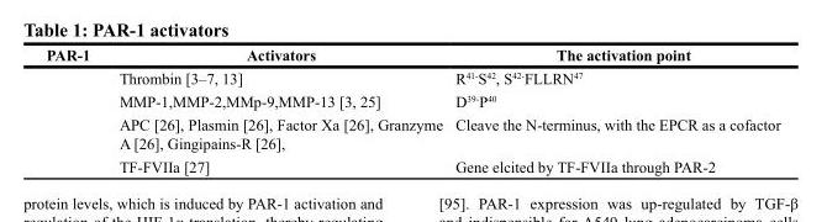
<table><thead><tr><td>PAR-1</td><td>Activators</td><td>The activation point</td></tr></thead><tbody><tr><td></td><td>Thrombin [3–7, 13]</td><td>R<sup>41-</sup>S<sup>42</sup>, S<sup>42-</sup>FLLRN<sup>47</sup></td></tr><tr><td></td><td>MMP-1,MMP-2,MMp-9,MMP-13 [3, 25]</td><td>D<sup>39-</sup>P<sup>40</sup></td></tr><tr><td></td><td>APC [26], Plasmin [26], Factor Xa [26], Granzyme A [26], Gingipains-R [26],</td><td>Cleave the N-terminus, with the EPCR as a cofactor</td></tr><tr><td></td><td>TF-FVIIa [27]</td><td>Gene elcited by TF-FVIIa through PAR-2</td></tr></tbody></table>